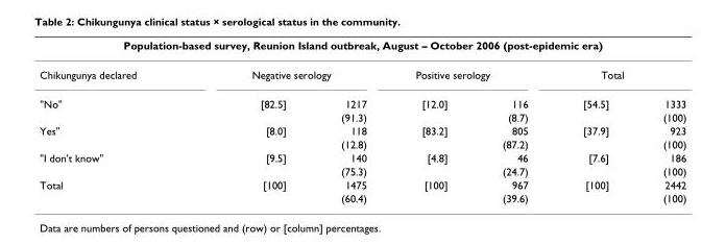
<table><thead><tr><td colspan="7">Population-based survey, Reunion Island outbreak, August – October 2006 (post-epidemic era)</td></tr><tr><td rowspan="2">Chikungunya declared &quot;No&quot;</td><td colspan="2">Negative serology</td><td colspan="2">Positive serology</td><td colspan="2">Total</td></tr><tr><td>[82.5]</td><td>1217</td><td>[12.0]</td><td>116</td><td>[54.5]</td><td>1333</td></tr></thead><tbody><tr><td></td><td></td><td>(91.3)</td><td></td><td>(8.7)</td><td></td><td>(100)</td></tr><tr><td rowspan="2">Yes&quot;</td><td>[8.0]</td><td>118</td><td>[83.2]</td><td>805</td><td>[37.9]</td><td>923</td></tr><tr><td></td><td>(12.8)</td><td></td><td>(87.2)</td><td></td><td>(100)</td></tr><tr><td rowspan="2">&quot;I don&#x27;t know&quot;</td><td>[9.5]</td><td>140</td><td>[4.8]</td><td>46</td><td>[7.6]</td><td>186</td></tr><tr><td></td><td>(75.3)</td><td></td><td>(24.7)</td><td></td><td>(100)</td></tr><tr><td rowspan="2">Total</td><td>[100]</td><td>1475</td><td>[100]</td><td>967</td><td>[100]</td><td>2442</td></tr><tr><td></td><td>(60.4)</td><td></td><td>(39.6)</td><td></td><td>(100)</td></tr></tbody></table>